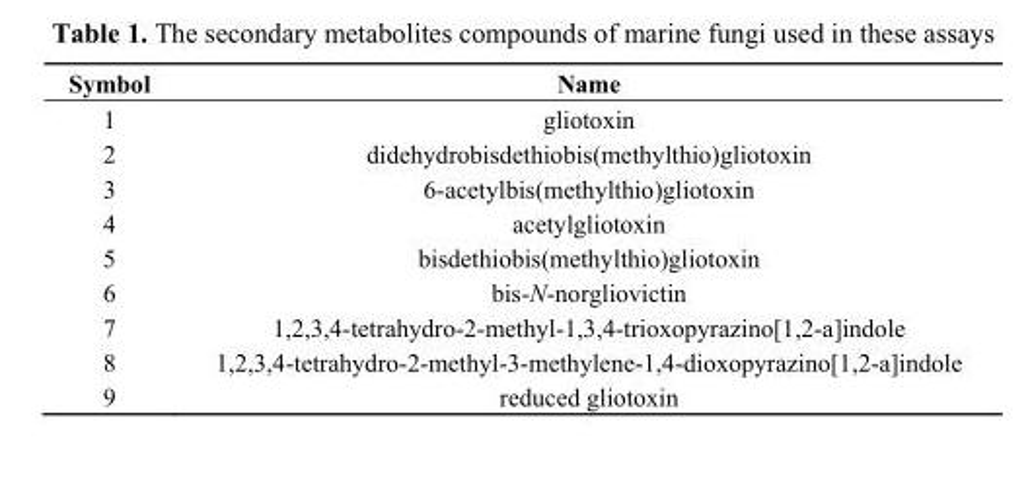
<table><thead><tr><td>Symbol</td><td>Name</td></tr></thead><tbody><tr><td>1</td><td>gliotoxin</td></tr><tr><td>2</td><td>didehydrobisdethiobis(methylthio)gliotoxin</td></tr><tr><td>3</td><td>6-acetylbis(methylthio)gliotoxin</td></tr><tr><td>4</td><td>acetylgliotoxin</td></tr><tr><td>5</td><td>bisdethiobis(methylthio)gliotoxin</td></tr><tr><td>6</td><td>bis-N-norgliovictin</td></tr><tr><td>7</td><td>1,2,3,4-tetrahydro-2-methyl-1,3,4-trioxopyrazino[1,2-a]indole</td></tr><tr><td>8</td><td>1,2,3,4-tetrahydro-2-methyl-3-methylene-1,4-dioxopyrazino[1,2-a]indole</td></tr><tr><td>9</td><td>reduced gliotoxin</td></tr></tbody></table>